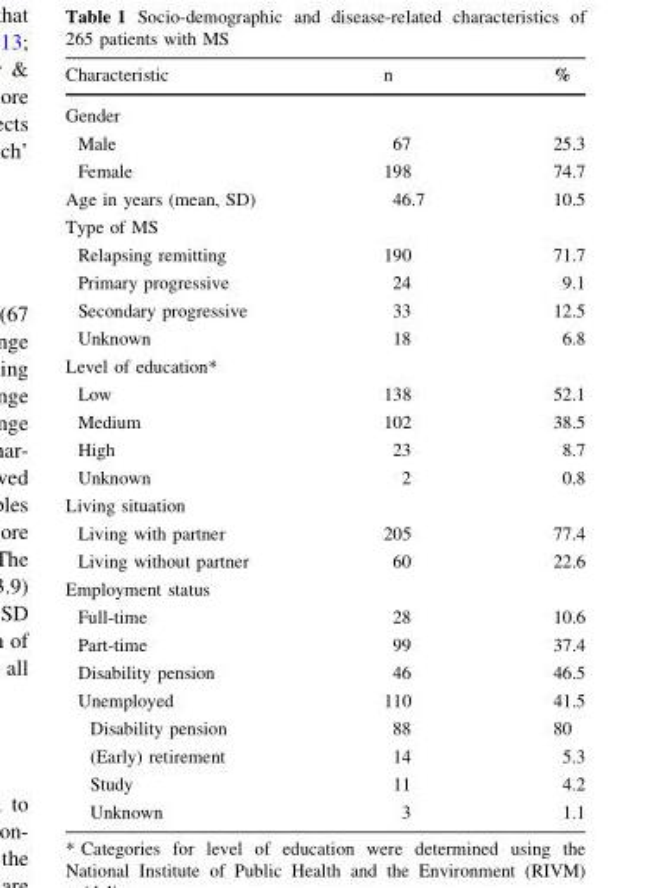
<table><thead><tr><td>Characteristic</td><td>n</td><td>%</td></tr></thead><tbody><tr><td colspan="3">Gender</td></tr><tr><td>Male</td><td>67</td><td>25.3</td></tr><tr><td>Female</td><td>198</td><td>74.7</td></tr><tr><td>Age in years (mean, SD)</td><td>46.7</td><td>10.5</td></tr><tr><td colspan="3">Type of MS</td></tr><tr><td>Relapsing remitting</td><td>190</td><td>71.7</td></tr><tr><td>Primary progressive</td><td>24</td><td>9.1</td></tr><tr><td>Secondary progressive</td><td>33</td><td>12.5</td></tr><tr><td>Unknown</td><td>18</td><td>6.8</td></tr><tr><td colspan="3">Level of education*</td></tr><tr><td>Low</td><td>138</td><td>52.1</td></tr><tr><td>Medium</td><td>102</td><td>38.5</td></tr><tr><td>High</td><td>23</td><td>8.7</td></tr><tr><td>Unknown</td><td>2</td><td>0.8</td></tr><tr><td colspan="3">Living situation</td></tr><tr><td>Living with partner</td><td>205</td><td>77.4</td></tr><tr><td>Living without partner</td><td>60</td><td>22.6</td></tr><tr><td colspan="3">Employment status</td></tr><tr><td>Full-time</td><td>28</td><td>10.6</td></tr><tr><td>Part-time</td><td>99</td><td>37.4</td></tr><tr><td>Disability pension</td><td>46</td><td>46.5</td></tr><tr><td>Unemployed</td><td>110</td><td>41.5</td></tr><tr><td>Disability pension</td><td>88</td><td>80</td></tr><tr><td>(Early) retirement</td><td>14</td><td>5.3</td></tr><tr><td>Study</td><td>11</td><td>4.2</td></tr><tr><td>Unknown</td><td>3</td><td>1.1</td></tr></tbody></table>